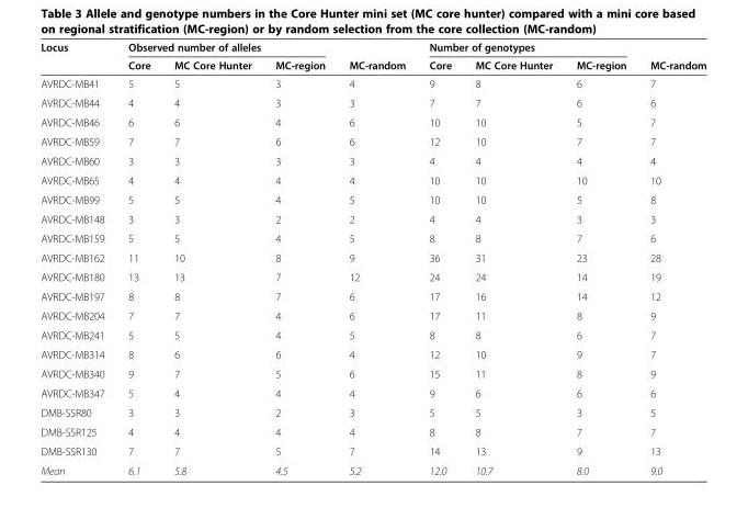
<table><thead><tr><td rowspan="2">Locus</td><td colspan="3">Observed number of alleles</td><td rowspan="2">MC-random</td><td colspan="3">Number of genotypes</td><td rowspan="2">MC-random</td></tr><tr><td>Core</td><td>MC Core Hunter</td><td>MC-region</td><td>Core</td><td>MC Core Hunter</td><td>MC-region</td></tr></thead><tbody><tr><td>AVRDC-MB41</td><td>5</td><td>5</td><td>3</td><td>4</td><td>9</td><td>8</td><td>6</td><td>7</td></tr><tr><td>AVRDC-MB44</td><td>4</td><td>4</td><td>3</td><td>3</td><td>7</td><td>7</td><td>6</td><td>6</td></tr><tr><td>AVRDC-MB46</td><td>6</td><td>6</td><td>4</td><td>6</td><td>10</td><td>10</td><td>5</td><td>7</td></tr><tr><td>AVRDC-MB59</td><td>7</td><td>7</td><td>6</td><td>6</td><td>12</td><td>10</td><td>7</td><td>7</td></tr><tr><td>AVRDC-MB60</td><td>3</td><td>3</td><td>3</td><td>3</td><td>4</td><td>4</td><td>4</td><td>4</td></tr><tr><td>AVRDC-MB65</td><td>4</td><td>4</td><td>4</td><td>4</td><td>10</td><td>10</td><td>10</td><td>10</td></tr><tr><td>AVRDC-MB99</td><td>5</td><td>5</td><td>4</td><td>5</td><td>10</td><td>10</td><td>5</td><td>8</td></tr><tr><td>AVRDC-MB148</td><td>3</td><td>3</td><td>2</td><td>2</td><td>4</td><td>4</td><td>3</td><td>3</td></tr><tr><td>AVRDC-MB159</td><td>5</td><td>5</td><td>4</td><td>5</td><td>8</td><td>8</td><td>7</td><td>6</td></tr><tr><td>AVRDC-MB162</td><td>11</td><td>10</td><td>8</td><td>9</td><td>36</td><td>31</td><td>23</td><td>28</td></tr><tr><td>AVRDC-MB180</td><td>13</td><td>13</td><td>7</td><td>12</td><td>24</td><td>24</td><td>14</td><td>19</td></tr><tr><td>AVRDC-MB197</td><td>8</td><td>8</td><td>7</td><td>6</td><td>17</td><td>16</td><td>14</td><td>12</td></tr><tr><td>AVRDC-MB204</td><td>7</td><td>7</td><td>4</td><td>6</td><td>17</td><td>11</td><td>8</td><td>9</td></tr><tr><td>AVRDC-MB241</td><td>5</td><td>5</td><td>4</td><td>5</td><td>8</td><td>8</td><td>6</td><td>7</td></tr><tr><td>AVRDC-MB314</td><td>8</td><td>6</td><td>6</td><td>4</td><td>12</td><td>10</td><td>9</td><td>7</td></tr><tr><td>AVRDC-MB340</td><td>9</td><td>7</td><td>5</td><td>6</td><td>15</td><td>11</td><td>8</td><td>9</td></tr><tr><td>AVRDC-MB347</td><td>5</td><td>4</td><td>4</td><td>4</td><td>9</td><td>6</td><td>6</td><td>6</td></tr><tr><td>DMB-SSR80</td><td>3</td><td>3</td><td>2</td><td>3</td><td>5</td><td>5</td><td>3</td><td>5</td></tr><tr><td>DMB-SSR125</td><td>4</td><td>4</td><td>4</td><td>4</td><td>8</td><td>8</td><td>7</td><td>7</td></tr><tr><td>DMB-SSR130</td><td>7</td><td>7</td><td>5</td><td>7</td><td>14</td><td>13</td><td>9</td><td>13</td></tr><tr><td>Mean</td><td>6.1</td><td>5.8</td><td>4.5</td><td>5.2</td><td>12.0</td><td>10.7</td><td>8.0</td><td>9.0</td></tr></tbody></table>